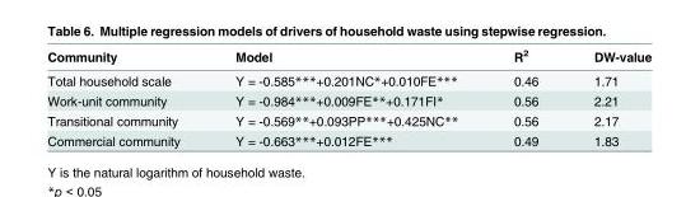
<table><thead><tr><td>Community</td><td>Model</td><td>R<sup>2</sup></td><td>DW-value</td></tr></thead><tbody><tr><td>Total household scale</td><td>Y = -0.585***+0.201NC*+0.010FE***</td><td>0.46</td><td>1.71</td></tr><tr><td>Work-unit community</td><td>Y = -0.984***+0.009FE**+0.171FI*</td><td>0.56</td><td>2.21</td></tr><tr><td>Transitional community</td><td>Y = -0.569**+0.093PP***+0.425NC**</td><td>0.56</td><td>2.17</td></tr><tr><td>Commercial community</td><td>Y = -0.663***+0.012FE***</td><td>0.49</td><td>1.83</td></tr></tbody></table>